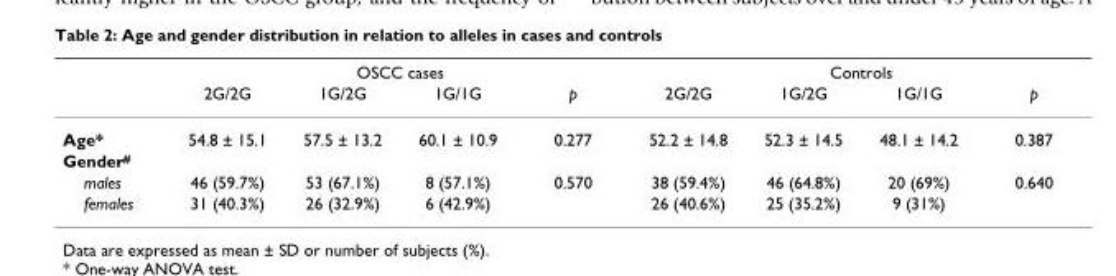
<table><thead><tr><td rowspan="2"></td><td colspan="4">OSCC cases</td><td colspan="4">Controls</td></tr><tr><td>2G/2G</td><td>1G/2G</td><td>1G/1G</td><td>p</td><td>2G/2G</td><td>1G/2G</td><td>1G/1G</td><td>p</td></tr></thead><tbody><tr><td>Age*</td><td>54.8 ± 15.1</td><td>57.5 ± 13.2</td><td>60.1 ± 10.9</td><td>0.277</td><td>52.2 ± 14.8</td><td>52.3 ± 14.5</td><td>48.1 ± 14.2</td><td>0.387</td></tr><tr><td colspan="9">Gender<sup>#</sup></td></tr><tr><td>males</td><td>46 (59.7%)</td><td>53 (67.1%)</td><td>8 (57.1%)</td><td>0.570</td><td>38 (59.4%)</td><td>46 (64.8%)</td><td>20 (69%)</td><td>0.640</td></tr><tr><td>females</td><td>31 (40.3%)</td><td>26 (32.9%)</td><td>6 (42.9%)</td><td></td><td>26 (40.6%)</td><td>25 (35.2%)</td><td>9 (31%)</td><td></td></tr></tbody></table>